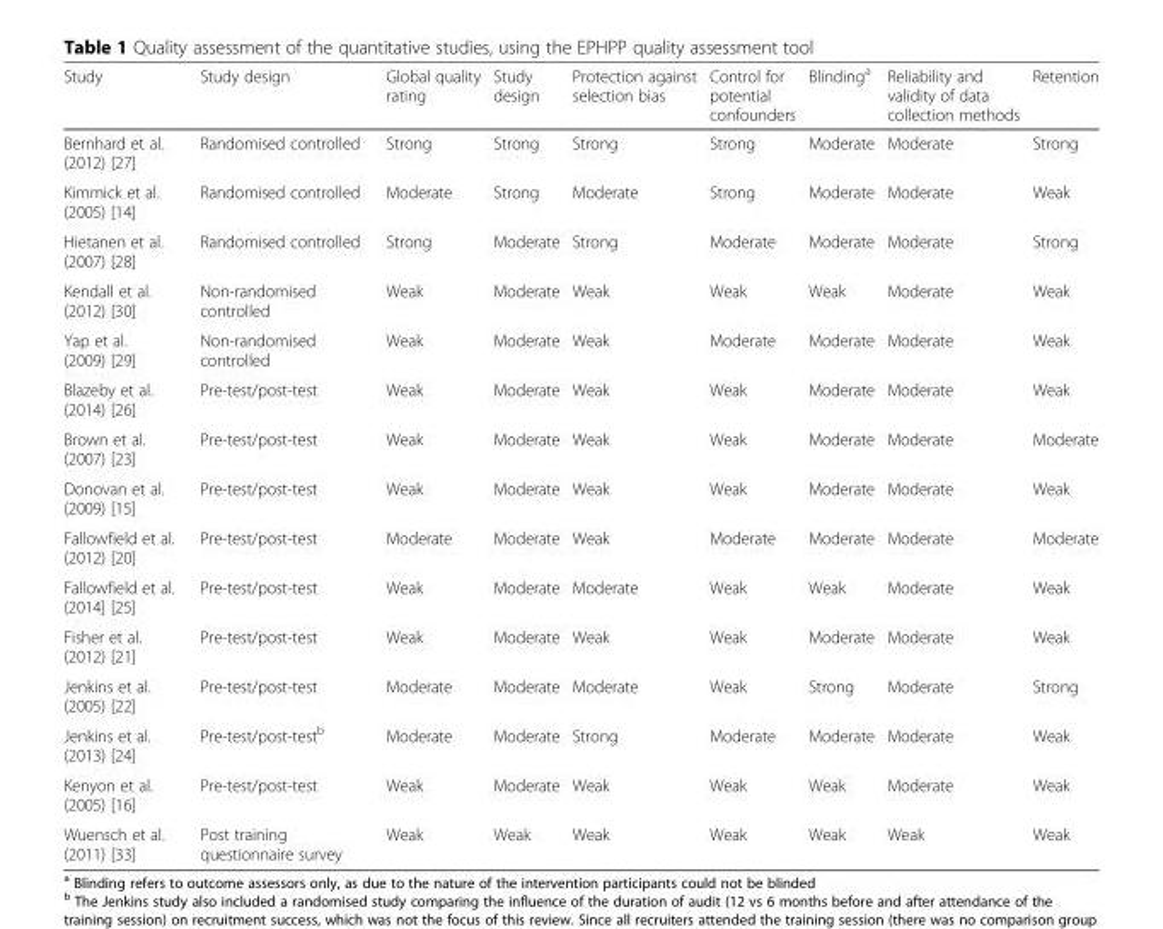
<table><thead><tr><td>Study</td><td>Study design</td><td>Global quality rating</td><td>Study design</td><td>Protection against selection bias</td><td>Control for potential confounders</td><td>Blinding<sup>a</sup></td><td>Reliability and validity of data collection methods</td><td>Retention</td></tr></thead><tbody><tr><td>Bernhard et al. (2012) [27]</td><td>Randomised controlled</td><td>Strong</td><td>Strong</td><td>Strong</td><td>Strong</td><td>Moderate</td><td>Moderate</td><td>Strong</td></tr><tr><td>Kimmick et al. (2005) [14]</td><td>Randomised controlled</td><td>Moderate</td><td>Strong</td><td>Moderate</td><td>Strong</td><td>Moderate</td><td>Moderate</td><td>Weak</td></tr><tr><td>Hietanen et al. (2007) [28]</td><td>Randomised controlled</td><td>Strong</td><td>Moderate</td><td>Strong</td><td>Moderate</td><td>Moderate</td><td>Moderate</td><td>Strong</td></tr><tr><td>Kendall et al. (2012) [30]</td><td>Non-randomised controlled</td><td>Weak</td><td>Moderate</td><td>Weak</td><td>Weak</td><td>Weak</td><td>Moderate</td><td>Weak</td></tr><tr><td>Yap et al. (2009) [29]</td><td>Non-randomised controlled</td><td>Weak</td><td>Moderate</td><td>Weak</td><td>Moderate</td><td>Moderate</td><td>Moderate</td><td>Weak</td></tr><tr><td>Blazeby et al. (2014) [26]</td><td>Pre-test/post-test</td><td>Weak</td><td>Moderate</td><td>Weak</td><td>Weak</td><td>Moderate</td><td>Moderate</td><td>Weak</td></tr><tr><td>Brown et al. (2007) [23]</td><td>Pre-test/post-test</td><td>Weak</td><td>Moderate</td><td>Weak</td><td>Weak</td><td>Moderate</td><td>Moderate</td><td>Moderate</td></tr><tr><td>Donovan et al. (2009) [15]</td><td>Pre-test/post-test</td><td>Weak</td><td>Moderate</td><td>Weak</td><td>Weak</td><td>Moderate</td><td>Moderate</td><td>Weak</td></tr><tr><td>Fallowfield et al. (2012) [20]</td><td>Pre-test/post-test</td><td>Moderate</td><td>Moderate</td><td>Weak</td><td>Moderate</td><td>Moderate</td><td>Moderate</td><td>Moderate</td></tr><tr><td>Fallowfield et al. (2014] [25]</td><td>Pre-test/post-test</td><td>Weak</td><td>Moderate</td><td>Moderate</td><td>Weak</td><td>Weak</td><td>Moderate</td><td>Weak</td></tr><tr><td>Fisher et al. (2012) [21]</td><td>Pre-test/post-test</td><td>Weak</td><td>Moderate</td><td>Weak</td><td>Weak</td><td>Moderate</td><td>Moderate</td><td>Weak</td></tr><tr><td>Jenkins et al. (2005) [22]</td><td>Pre-test/post-test</td><td>Moderate</td><td>Moderate</td><td>Moderate</td><td>Weak</td><td>Strong</td><td>Moderate</td><td>Strong</td></tr><tr><td>Jenkins et al. (2013) [24]</td><td>Pre-test/post-test<sup>b</sup></td><td>Moderate</td><td>Moderate</td><td>Strong</td><td>Moderate</td><td>Moderate</td><td>Moderate</td><td>Weak</td></tr><tr><td>Kenyon et al. (2005) [16]</td><td>Pre-test/post-test</td><td>Weak</td><td>Moderate</td><td>Weak</td><td>Weak</td><td>Weak</td><td>Moderate</td><td>Weak</td></tr><tr><td>Wuensch et al. (2011) [33]</td><td>Post training questionnaire survey</td><td>Weak</td><td>Weak</td><td>Weak</td><td>Weak</td><td>Weak</td><td>Weak</td><td>Weak</td></tr></tbody></table>